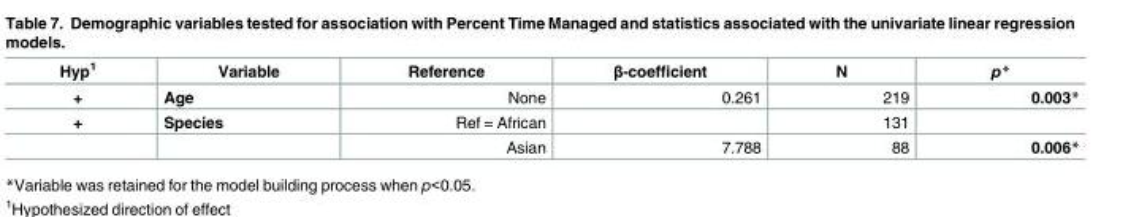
<table><thead><tr><td>Hyp<sup>1</sup></td><td>Variable</td><td>Reference</td><td>β-coefficient</td><td>N</td><td>p*</td></tr></thead><tbody><tr><td>+</td><td>Age</td><td>None</td><td>0.261</td><td>219</td><td>0.003*</td></tr><tr><td rowspan="2">+</td><td>Species</td><td>Ref = African</td><td></td><td>131</td><td></td></tr><tr><td></td><td>Asian</td><td>7.788</td><td>88</td><td>0.006*</td></tr></tbody></table>